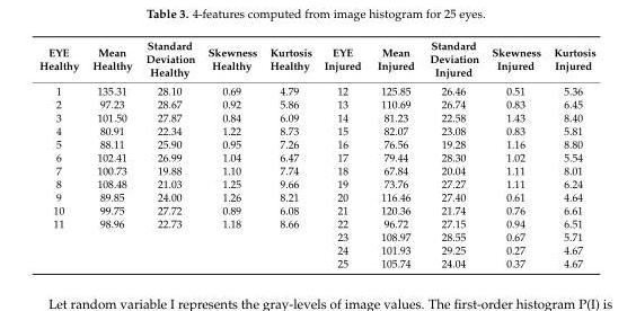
<table><thead><tr><td>EYE Healthy</td><td>Mean Healthy</td><td>Standard Deviation Healthy</td><td>Skewness Healthy</td><td>Kurtosis Healthy</td><td>EYE Injured</td><td>Mean Injured</td><td>Standard Deviation Injured</td><td>Skewness Injured</td><td>Kurtosis Injured</td></tr></thead><tbody><tr><td>1</td><td>135.31</td><td>28.10</td><td>0.69</td><td>4.79</td><td>12</td><td>125.85</td><td>26.46</td><td>0.51</td><td>5.36</td></tr><tr><td>2</td><td>97.23</td><td>28.67</td><td>0.92</td><td>5.86</td><td>13</td><td>110.69</td><td>26.74</td><td>0.83</td><td>6.45</td></tr><tr><td>3</td><td>101.50</td><td>27.87</td><td>0.84</td><td>6.09</td><td>14</td><td>81.23</td><td>22.58</td><td>1.43</td><td>8.40</td></tr><tr><td>4</td><td>80.91</td><td>22.34</td><td>1.22</td><td>8.73</td><td>15</td><td>82.07</td><td>23.08</td><td>0.83</td><td>5.81</td></tr><tr><td>5</td><td>88.11</td><td>25.90</td><td>0.95</td><td>7.26</td><td>16</td><td>76.56</td><td>19.28</td><td>1.16</td><td>8.80</td></tr><tr><td>6</td><td>102.41</td><td>26.99</td><td>1.04</td><td>6.47</td><td>17</td><td>79.44</td><td>28.30</td><td>1.02</td><td>5.54</td></tr><tr><td>7</td><td>100.73</td><td>19.88</td><td>1.10</td><td>7.74</td><td>18</td><td>67.84</td><td>20.04</td><td>1.11</td><td>8.01</td></tr><tr><td>8</td><td>108.48</td><td>21.03</td><td>1.25</td><td>9.66</td><td>19</td><td>73.76</td><td>27.27</td><td>1.11</td><td>6.24</td></tr><tr><td>9</td><td>89.85</td><td>24.00</td><td>1.26</td><td>8.21</td><td>20</td><td>116.46</td><td>27.40</td><td>0.61</td><td>4.64</td></tr><tr><td>10</td><td>99.75</td><td>27.72</td><td>0.89</td><td>6.08</td><td>21</td><td>120.36</td><td>21.74</td><td>0.76</td><td>6.61</td></tr><tr><td rowspan="4">11</td><td>98.96</td><td>22.73</td><td>1.18</td><td>8.66</td><td>22</td><td>96.72</td><td>27.15</td><td>0.94</td><td>6.51</td></tr><tr><td></td><td></td><td></td><td></td><td>23</td><td>108.97</td><td>28.55</td><td>0.67</td><td>5.71</td></tr><tr><td></td><td></td><td></td><td></td><td>24</td><td>101.93</td><td>29.25</td><td>0.27</td><td>4.67</td></tr><tr><td></td><td></td><td></td><td></td><td>25</td><td>105.74</td><td>24.04</td><td>0.37</td><td>4.67</td></tr></tbody></table>